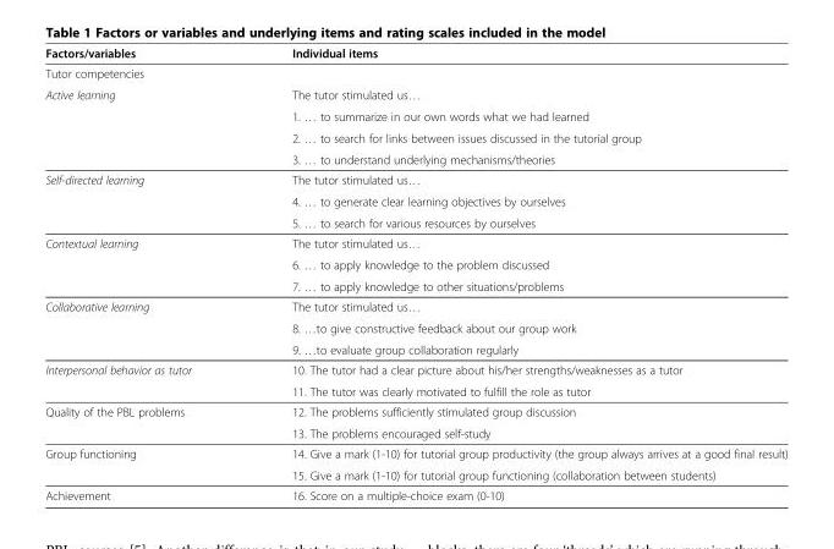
<table><thead><tr><td>Factors/variables</td><td>Individual items</td></tr></thead><tbody><tr><td colspan="2">Tutor competencies</td></tr><tr><td rowspan="4">Active learning</td><td>The tutor stimulated us…</td></tr><tr><td>1. … to summarize in our own words what we had learned</td></tr><tr><td>2. … to search for links between issues discussed in the tutorial group</td></tr><tr><td>3. … to understand underlying mechanisms/theories</td></tr><tr><td rowspan="3">Self-directed learning</td><td>The tutor stimulated us…</td></tr><tr><td>4. … to generate clear learning objectives by ourselves</td></tr><tr><td>5. … to search for various resources by ourselves</td></tr><tr><td rowspan="3">Contextual learning</td><td>The tutor stimulated us…</td></tr><tr><td>6. … to apply knowledge to the problem discussed</td></tr><tr><td>7. … to apply knowledge to other situations/problems</td></tr><tr><td rowspan="3">Collaborative learning</td><td>The tutor stimulated us…</td></tr><tr><td>8. …to give constructive feedback about our group work</td></tr><tr><td>9. …to evaluate group collaboration regularly</td></tr><tr><td rowspan="2">Interpersonal behavior as tutor</td><td>10. The tutor had a clear picture about his/her strengths/weaknesses as a tutor</td></tr><tr><td>11. The tutor was clearly motivated to fulfill the role as tutor</td></tr><tr><td rowspan="2">Quality of the PBL problems</td><td>12. The problems sufficiently stimulated group discussion</td></tr><tr><td>13. The problems encouraged self-study</td></tr><tr><td rowspan="2">Group functioning</td><td>14. Give a mark (1-10) for tutorial group productivity (the group always arrives at a good final result)</td></tr><tr><td>15. Give a mark (1-10) for tutorial group functioning (collaboration between students)</td></tr><tr><td>Achievement</td><td>16. Score on a multiple-choice exam (0-10)</td></tr></tbody></table>